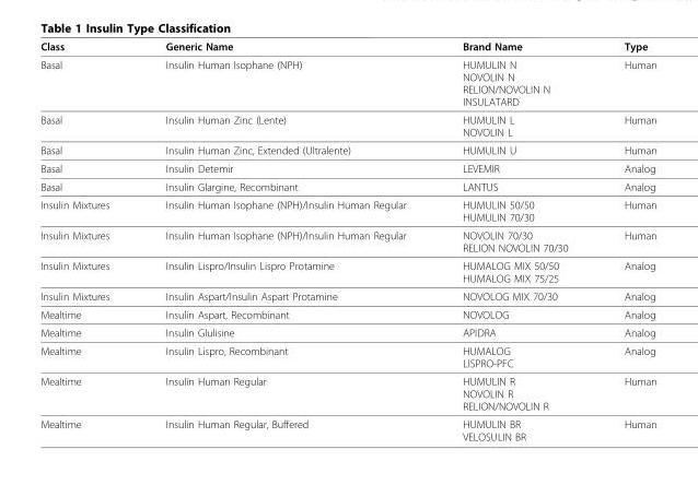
<table><thead><tr><td>Class</td><td>Generic Name</td><td>Brand Name</td><td>Type</td></tr></thead><tbody><tr><td>Basal</td><td>Insulin Human Isophane (NPH)</td><td>HUMULIN N NOVOLIN N RELION/NOVOLIN N INSULATARD</td><td>Human</td></tr><tr><td>Basal</td><td>Insulin Human Zinc (Lente)</td><td>HUMULIN L NOVOLIN L</td><td>Human</td></tr><tr><td>Basal</td><td>Insulin Human Zinc, Extended (Ultralente)</td><td>HUMULIN U</td><td>Human</td></tr><tr><td>Basal</td><td>Insulin Detemir</td><td>LEVEMIR</td><td>Analog</td></tr><tr><td>Basal</td><td>Insulin Glargine, Recombinant</td><td>LANTUS</td><td>Analog</td></tr><tr><td>Insulin Mixtures</td><td>Insulin Human Isophane (NPH)/Insulin Human Regular</td><td>HUMULIN 50/50 HUMULIN 70/30</td><td>Human</td></tr><tr><td>Insulin Mixtures</td><td>Insulin Human Isophane (NPH)/Insulin Human Regular</td><td>NOVOLIN 70/30 RELION NOVOLIN 70/30</td><td>Human</td></tr><tr><td>Insulin Mixtures</td><td>Insulin Lispro/Insulin Lispro Protamine</td><td>HUMALOG MIX 50/50 HUMALOG MIX 75/25</td><td>Analog</td></tr><tr><td>Insulin Mixtures</td><td>Insulin Aspart/Insulin Aspart Protamine</td><td>NOVOLOG MIX 70/30</td><td>Analog</td></tr><tr><td>Mealtime</td><td>Insulin Aspart, Recombinant</td><td>NOVOLOG</td><td>Analog</td></tr><tr><td>Mealtime</td><td>Insulin Glulisine</td><td>APIDRA</td><td>Analog</td></tr><tr><td>Mealtime</td><td>Insulin Lispro, Recombinant</td><td>HUMALOG LISPRO-PFC</td><td>Analog</td></tr><tr><td>Mealtime</td><td>Insulin Human Regular</td><td>HUMULIN R NOVOLIN R RELION/NOVOLIN R</td><td>Human</td></tr><tr><td>Mealtime</td><td>Insulin Human Regular, Buffered</td><td>HUMULIN BR VELOSULIN BR</td><td>Human</td></tr></tbody></table>